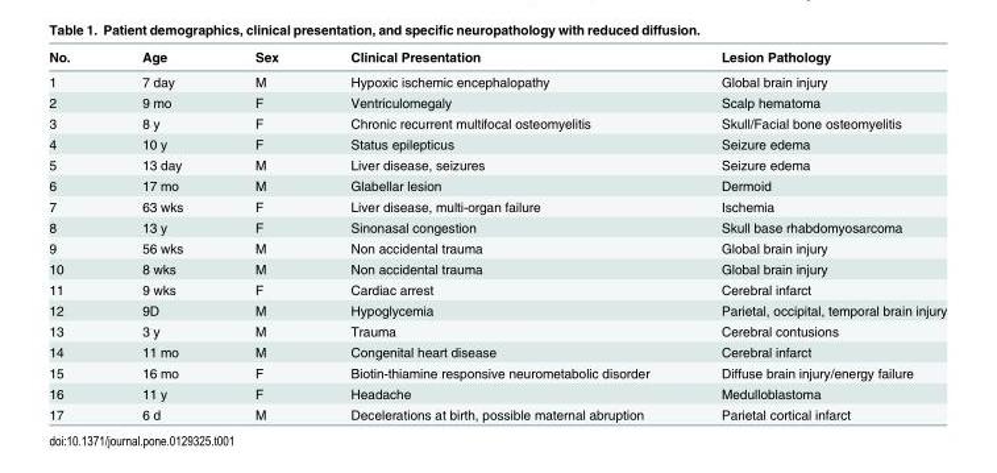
<table><thead><tr><td>No.</td><td>Age</td><td>Sex</td><td>Clinical Presentation</td><td>Lesion Pathology</td></tr></thead><tbody><tr><td>1</td><td>7 day</td><td>M</td><td>Hypoxic ischemic encephalopathy</td><td>Global brain injury</td></tr><tr><td>2</td><td>9 mo</td><td>F</td><td>Ventriculomegaly</td><td>Scalp hematoma</td></tr><tr><td>3</td><td>8 y</td><td>F</td><td>Chronic recurrent multifocal osteomyelitis</td><td>Skull/Facial bone osteomyelitis</td></tr><tr><td>4</td><td>10 y</td><td>F</td><td>Status epilepticus</td><td>Seizure edema</td></tr><tr><td>5</td><td>13 day</td><td>M</td><td>Liver disease, seizures</td><td>Seizure edema</td></tr><tr><td>6</td><td>17 mo</td><td>M</td><td>Glabellar lesion</td><td>Dermoid</td></tr><tr><td>7</td><td>63 wks</td><td>F</td><td>Liver disease, multi-organ failure</td><td>Ischemia</td></tr><tr><td>8</td><td>13 y</td><td>F</td><td>Sinonasal congestion</td><td>Skull base rhabdomyosarcoma</td></tr><tr><td>9</td><td>56 wks</td><td>M</td><td>Non accidental trauma</td><td>Global brain injury</td></tr><tr><td>10</td><td>8 wks</td><td>M</td><td>Non accidental trauma</td><td>Global brain injury</td></tr><tr><td>11</td><td>9 wks</td><td>F</td><td>Cardiac arrest</td><td>Cerebral infarct</td></tr><tr><td>12</td><td>9D</td><td>M</td><td>Hypoglycemia</td><td>Parietal, occipital, temporal brain injury</td></tr><tr><td>13</td><td>3 y</td><td>M</td><td>Trauma</td><td>Cerebral contusions</td></tr><tr><td>14</td><td>11 mo</td><td>M</td><td>Congenital heart disease</td><td>Cerebral infarct</td></tr><tr><td>15</td><td>16 mo</td><td>F</td><td>Biotin-thiamine responsive neurometabolic disorder</td><td>Diffuse brain injury/energy failure</td></tr><tr><td>16</td><td>11 y</td><td>F</td><td>Headache</td><td>Medulloblastoma</td></tr><tr><td>17</td><td>6 d</td><td>M</td><td>Decelerations at birth, possible maternal abruption</td><td>Parietal cortical infarct</td></tr></tbody></table>